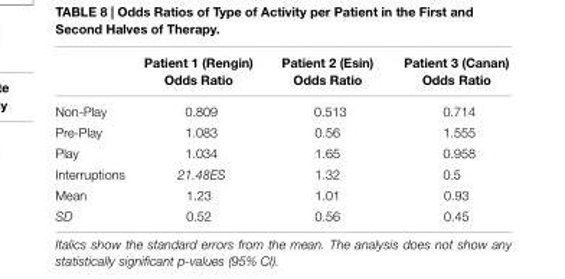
<table><thead><tr><td></td><td>Patient 1 (Rengin) Odds Ratio</td><td>Patient 2 (Esin) Odds Ratio</td><td>Patient 3 (Canan) Odds Ratio</td></tr></thead><tbody><tr><td>Non-Play</td><td>0.809</td><td>0.513</td><td>0.714</td></tr><tr><td>Pre-Play</td><td>1.083</td><td>0.56</td><td>1.555</td></tr><tr><td>Play</td><td>1.034</td><td>1.65</td><td>0.958</td></tr><tr><td>Interruptions</td><td>21.48ES</td><td>1.32</td><td>0.5</td></tr><tr><td>Mean</td><td>1.23</td><td>1.01</td><td>0.93</td></tr><tr><td>SD</td><td>0.52</td><td>0.56</td><td>0.45</td></tr></tbody></table>